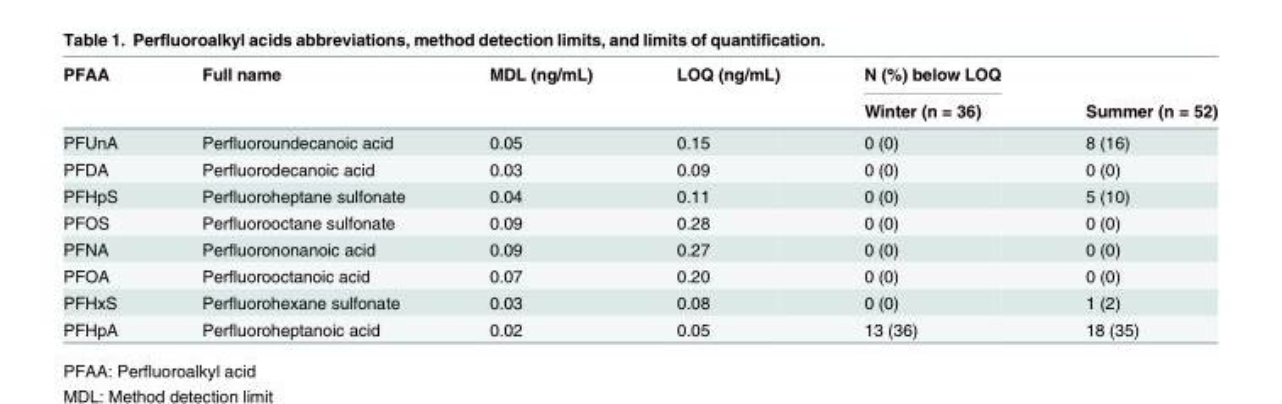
<table><thead><tr><td rowspan="2">PFAA</td><td rowspan="2">Full name</td><td rowspan="2">MDL (ng/mL)</td><td rowspan="2">LOQ (ng/mL)</td><td rowspan="2">N (%) below LOQ Winter (n = 36)</td><td rowspan="2">Summer (n = 52)</td></tr><tr></tr></thead><tbody><tr><td>PFUnA</td><td>Perfluoroundecanoic acid</td><td>0.05</td><td>0.15</td><td>0 (0)</td><td>8 (16)</td></tr><tr><td>PFDA</td><td>Perfluorodecanoic acid</td><td>0.03</td><td>0.09</td><td>0 (0)</td><td>0 (0)</td></tr><tr><td>PFHpS</td><td>Perfluoroheptane sulfonate</td><td>0.04</td><td>0.11</td><td>0 (0)</td><td>5 (10)</td></tr><tr><td>PFOS</td><td>Perfluorooctane sulfonate</td><td>0.09</td><td>0.28</td><td>0 (0)</td><td>0 (0)</td></tr><tr><td>PFNA</td><td>Perfluorononanoic acid</td><td>0.09</td><td>0.27</td><td>0 (0)</td><td>0 (0)</td></tr><tr><td>PFOA</td><td>Perfluorooctanoic acid</td><td>0.07</td><td>0.20</td><td>0 (0)</td><td>0 (0)</td></tr><tr><td>PFHxS</td><td>Perfluorohexane sulfonate</td><td>0.03</td><td>0.08</td><td>0 (0)</td><td>1 (2)</td></tr><tr><td>PFHpA</td><td>Perfluoroheptanoic acid</td><td>0.02</td><td>0.05</td><td>13 (36)</td><td>18 (35)</td></tr></tbody></table>